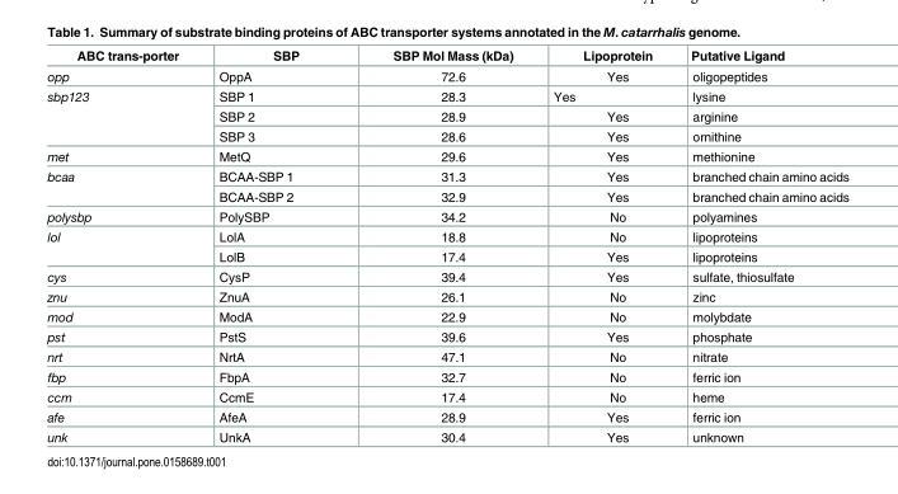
<table><thead><tr><td>ABC trans-porter</td><td>SBP</td><td>SBP Mol Mass (kDa)</td><td>Lipoprotein</td><td>Putative Ligand</td></tr></thead><tbody><tr><td>opp</td><td>OppA</td><td>72.6</td><td>Yes</td><td>oligopeptides</td></tr><tr><td rowspan="3">sbp123</td><td>SBP 1</td><td>28.3</td><td>Yes</td><td>lysine</td></tr><tr><td>SBP 2</td><td>28.9</td><td>Yes</td><td>arginine</td></tr><tr><td>SBP 3</td><td>28.6</td><td>Yes</td><td>ornithine</td></tr><tr><td>met</td><td>MetQ</td><td>29.6</td><td>Yes</td><td>methionine</td></tr><tr><td rowspan="2">bcaa</td><td>BCAA-SBP 1</td><td>31.3</td><td>Yes</td><td>branched chain amino acids</td></tr><tr><td>BCAA-SBP 2</td><td>32.9</td><td>Yes</td><td>branched chain amino acids</td></tr><tr><td>polysbp</td><td>PolySBP</td><td>34.2</td><td>No</td><td>polyamines</td></tr><tr><td rowspan="2">lol</td><td>LolA</td><td>18.8</td><td>No</td><td>lipoproteins</td></tr><tr><td>LolB</td><td>17.4</td><td>Yes</td><td>lipoproteins</td></tr><tr><td>cys</td><td>CysP</td><td>39.4</td><td>Yes</td><td>sulfate, thiosulfate</td></tr><tr><td>znu</td><td>ZnuA</td><td>26.1</td><td>No</td><td>zinc</td></tr><tr><td>mod</td><td>ModA</td><td>22.9</td><td>No</td><td>molybdate</td></tr><tr><td>pst</td><td>PstS</td><td>39.6</td><td>Yes</td><td>phosphate</td></tr><tr><td>nrt</td><td>NrtA</td><td>47.1</td><td>No</td><td>nitrate</td></tr><tr><td>fbp</td><td>FbpA</td><td>32.7</td><td>No</td><td>ferric ion</td></tr><tr><td>ccm</td><td>CcmE</td><td>17.4</td><td>No</td><td>heme</td></tr><tr><td>afe</td><td>AfeA</td><td>28.9</td><td>Yes</td><td>ferric ion</td></tr><tr><td>unk</td><td>UnkA</td><td>30.4</td><td>Yes</td><td>unknown</td></tr></tbody></table>